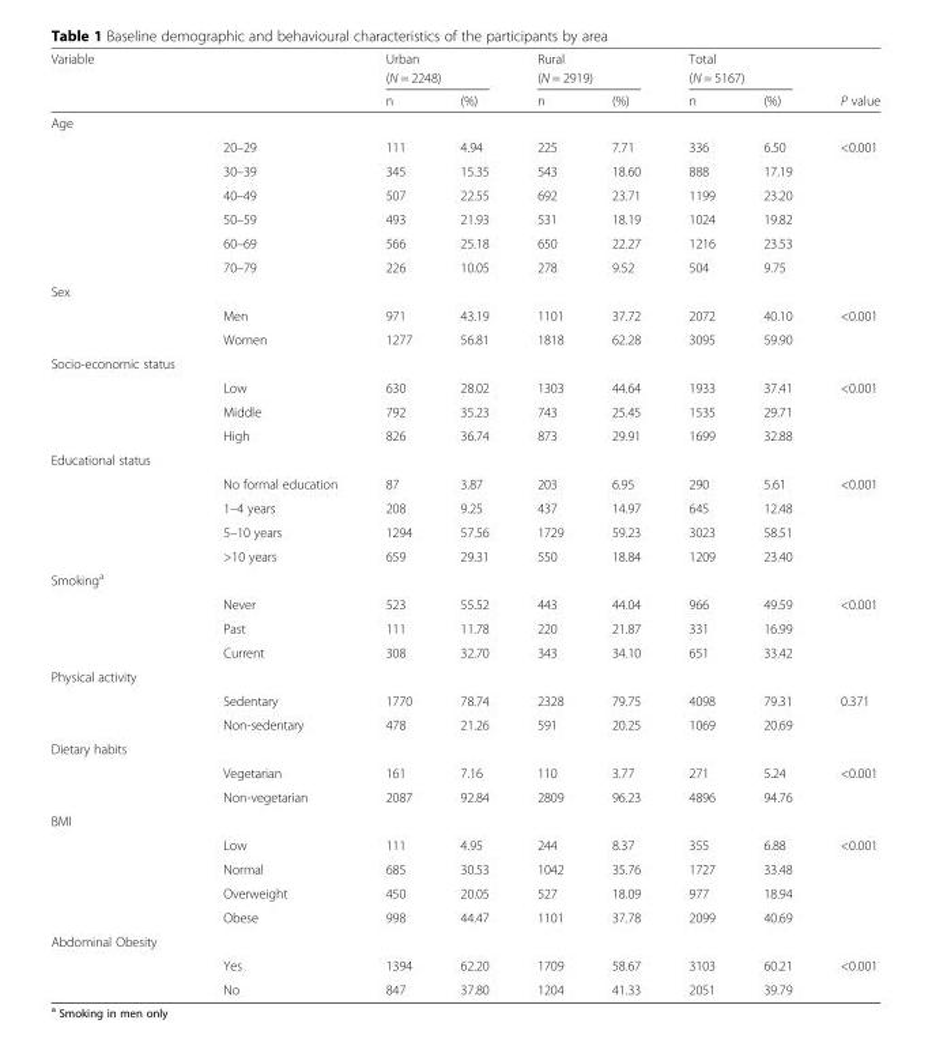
<table><thead><tr><td rowspan="3">Variable</td><td rowspan="3"></td><td rowspan="2" colspan="2">Urban (N = 2248)</td><td rowspan="2" colspan="2">Rural (N = 2919)</td><td rowspan="2" colspan="2">Total (N = 5167)</td><td rowspan="3">P value</td></tr><tr></tr><tr><td>n</td><td>(%)</td><td>n</td><td>(%)</td><td>n</td><td>(%)</td></tr></thead><tbody><tr><td colspan="9">Age</td></tr><tr><td rowspan="6"></td><td>20–29</td><td>111</td><td>4.94</td><td>225</td><td>7.71</td><td>336</td><td>6.50</td><td>&lt;0.001</td></tr><tr><td>30–39</td><td>345</td><td>15.35</td><td>543</td><td>18.60</td><td>888</td><td>17.19</td><td></td></tr><tr><td>40–49</td><td>507</td><td>22.55</td><td>692</td><td>23.71</td><td>1199</td><td>23.20</td><td></td></tr><tr><td>50–59</td><td>493</td><td>21.93</td><td>531</td><td>18.19</td><td>1024</td><td>19.82</td><td></td></tr><tr><td>60–69</td><td>566</td><td>25.18</td><td>650</td><td>22.27</td><td>1216</td><td>23.53</td><td></td></tr><tr><td>70–79</td><td>226</td><td>10.05</td><td>278</td><td>9.52</td><td>504</td><td>9.75</td><td></td></tr><tr><td colspan="9">Sex</td></tr><tr><td rowspan="2"></td><td>Men</td><td>971</td><td>43.19</td><td>1101</td><td>37.72</td><td>2072</td><td>40.10</td><td>&lt;0.001</td></tr><tr><td>Women</td><td>1277</td><td>56.81</td><td>1818</td><td>62.28</td><td>3095</td><td>59.90</td><td></td></tr><tr><td colspan="9">Socio-economic status</td></tr><tr><td rowspan="3"></td><td>Low</td><td>630</td><td>28.02</td><td>1303</td><td>44.64</td><td>1933</td><td>37.41</td><td>&lt;0.001</td></tr><tr><td>Middle</td><td>792</td><td>35.23</td><td>743</td><td>25.45</td><td>1535</td><td>29.71</td><td></td></tr><tr><td>High</td><td>826</td><td>36.74</td><td>873</td><td>29.91</td><td>1699</td><td>32.88</td><td></td></tr><tr><td colspan="9">Educational status</td></tr><tr><td rowspan="4"></td><td>No formal education</td><td>87</td><td>3.87</td><td>203</td><td>6.95</td><td>290</td><td>5.61</td><td>&lt;0.001</td></tr><tr><td>1–4 years</td><td>208</td><td>9.25</td><td>437</td><td>14.97</td><td>645</td><td>12.48</td><td></td></tr><tr><td>5–10 years</td><td>1294</td><td>57.56</td><td>1729</td><td>59.23</td><td>3023</td><td>58.51</td><td></td></tr><tr><td>&gt;10 years</td><td>659</td><td>29.31</td><td>550</td><td>18.84</td><td>1209</td><td>23.40</td><td></td></tr><tr><td colspan="9">Smoking<sup>a</sup></td></tr><tr><td rowspan="3"></td><td>Never</td><td>523</td><td>55.52</td><td>443</td><td>44.04</td><td>966</td><td>49.59</td><td>&lt;0.001</td></tr><tr><td>Past</td><td>111</td><td>11.78</td><td>220</td><td>21.87</td><td>331</td><td>16.99</td><td></td></tr><tr><td>Current</td><td>308</td><td>32.70</td><td>343</td><td>34.10</td><td>651</td><td>33.42</td><td></td></tr><tr><td colspan="9">Physical activity</td></tr><tr><td rowspan="2"></td><td>Sedentary</td><td>1770</td><td>78.74</td><td>2328</td><td>79.75</td><td>4098</td><td>79.31</td><td>0.371</td></tr><tr><td>Non-sedentary</td><td>478</td><td>21.26</td><td>591</td><td>20.25</td><td>1069</td><td>20.69</td><td></td></tr><tr><td colspan="9">Dietary habits</td></tr><tr><td rowspan="2"></td><td>Vegetarian</td><td>161</td><td>7.16</td><td>110</td><td>3.77</td><td>271</td><td>5.24</td><td>&lt;0.001</td></tr><tr><td>Non-vegetarian</td><td>2087</td><td>92.84</td><td>2809</td><td>96.23</td><td>4896</td><td>94.76</td><td></td></tr><tr><td colspan="9">BMI</td></tr><tr><td rowspan="4"></td><td>Low</td><td>111</td><td>4.95</td><td>244</td><td>8.37</td><td>355</td><td>6.88</td><td>&lt;0.001</td></tr><tr><td>Normal</td><td>685</td><td>30.53</td><td>1042</td><td>35.76</td><td>1727</td><td>33.48</td><td></td></tr><tr><td>Overweight</td><td>450</td><td>20.05</td><td>527</td><td>18.09</td><td>977</td><td>18.94</td><td></td></tr><tr><td>Obese</td><td>998</td><td>44.47</td><td>1101</td><td>37.78</td><td>2099</td><td>40.69</td><td></td></tr><tr><td colspan="9">Abdominal Obesity</td></tr><tr><td rowspan="2"></td><td>Yes</td><td>1394</td><td>62.20</td><td>1709</td><td>58.67</td><td>3103</td><td>60.21</td><td>&lt;0.001</td></tr><tr><td>No</td><td>847</td><td>37.80</td><td>1204</td><td>41.33</td><td>2051</td><td>39.79</td><td></td></tr></tbody></table>